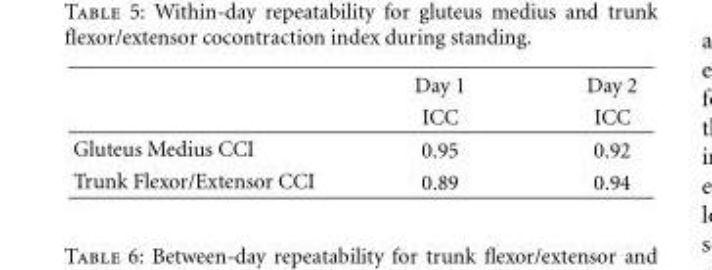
<table><thead><tr><td rowspan="2"></td><td rowspan="2">Day 1 ICC</td><td rowspan="2">Day 2 ICC</td></tr><tr></tr></thead><tbody><tr><td>Gluteus Medius CCI</td><td>0.95</td><td>0.92</td></tr><tr><td>Trunk Flexor/Extensor CCI</td><td>0.89</td><td>0.94</td></tr></tbody></table>